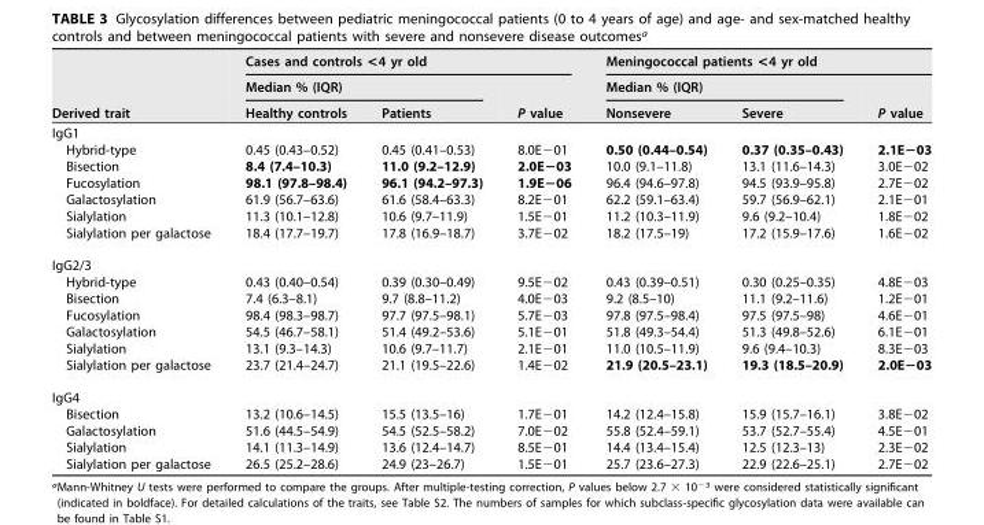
<table><thead><tr><td rowspan="3">Derived trait</td><td colspan="3">Cases and controls &lt;4 yr old</td><td colspan="3">Meningococcal patients &lt;4 yr old</td></tr><tr><td colspan="2">Median % (IQR)</td><td rowspan="2">P value</td><td colspan="2">Median % (IQR)</td><td rowspan="2">P value</td></tr><tr><td>Healthy controls</td><td>Patients</td><td>Nonsevere</td><td>Severe</td></tr></thead><tbody><tr><td colspan="7">IgG1</td></tr><tr><td>Hybrid-type</td><td>0.45 (0.43–0.52)</td><td>0.45 (0.41–0.53)</td><td>8.0E−01</td><td>0.50 (0.44–0.54)</td><td>0.37 (0.35–0.43)</td><td>2.1E−03</td></tr><tr><td>Bisection</td><td>8.4 (7.4–10.3)</td><td>11.0 (9.2–12.9)</td><td>2.0E−03</td><td>10.0 (9.1–11.8)</td><td>13.1 (11.6–14.3)</td><td>3.0E−02</td></tr><tr><td>Fucosylation</td><td>98.1 (97.8–98.4)</td><td>96.1 (94.2–97.3)</td><td>1.9E−06</td><td>96.4 (94.6–97.8)</td><td>94.5 (93.9–95.8)</td><td>2.7E−02</td></tr><tr><td>Galactosylation</td><td>61.9 (56.7–63.6)</td><td>61.6 (58.4–63.3)</td><td>8.2E−01</td><td>62.2 (59.1–63.4)</td><td>59.7 (56.9–62.1)</td><td>2.1E−01</td></tr><tr><td>Sialylation</td><td>11.3 (10.1–12.8)</td><td>10.6 (9.7–11.9)</td><td>1.5E−01</td><td>11.2 (10.3–11.9)</td><td>9.6 (9.2–10.4)</td><td>1.8E−02</td></tr><tr><td>Sialylation per galactose</td><td>18.4 (17.7–19.7)</td><td>17.8 (16.9–18.7)</td><td>3.7E−02</td><td>18.2 (17.5–19)</td><td>17.2 (15.9–17.6)</td><td>1.6E−02</td></tr><tr><td colspan="7">IgG2/3</td></tr><tr><td>Hybrid-type</td><td>0.43 (0.40–0.54)</td><td>0.39 (0.30–0.49)</td><td>9.5E−02</td><td>0.43 (0.39–0.51)</td><td>0.30 (0.25–0.35)</td><td>4.8E−03</td></tr><tr><td>Bisection</td><td>7.4 (6.3–8.1)</td><td>9.7 (8.8–11.2)</td><td>4.0E−03</td><td>9.2 (8.5–10)</td><td>11.1 (9.2–11.6)</td><td>1.2E−01</td></tr><tr><td>Fucosylation</td><td>98.4 (98.3–98.7)</td><td>97.7 (97.5–98.1)</td><td>5.7E−03</td><td>97.8 (97.5–98.4)</td><td>97.5 (97.5–98)</td><td>4.6E−01</td></tr><tr><td>Galactosylation</td><td>54.5 (46.7–58.1)</td><td>51.4 (49.2–53.6)</td><td>5.1E−01</td><td>51.8 (49.3–54.4)</td><td>51.3 (49.8–52.6)</td><td>6.1E−01</td></tr><tr><td>Sialylation</td><td>13.1 (9.3–14.3)</td><td>10.6 (9.7–11.7)</td><td>2.1E−01</td><td>11.0 (10.5–11.9)</td><td>9.6 (9.4–10.3)</td><td>8.3E−03</td></tr><tr><td>Sialylation per galactose</td><td>23.7 (21.4–24.7)</td><td>21.1 (19.5–22.6)</td><td>1.4E−02</td><td>21.9 (20.5–23.1)</td><td>19.3 (18.5–20.9)</td><td>2.0E−03</td></tr><tr><td colspan="7">IgG4</td></tr><tr><td>Bisection</td><td>13.2 (10.6–14.5)</td><td>15.5 (13.5–16)</td><td>1.7E−01</td><td>14.2 (12.4–15.8)</td><td>15.9 (15.7–16.1)</td><td>3.8E−02</td></tr><tr><td>Galactosylation</td><td>51.6 (44.5–54.9)</td><td>54.5 (52.5–58.2)</td><td>7.0E−02</td><td>55.8 (52.4–59.1)</td><td>53.7 (52.7–55.4)</td><td>4.5E−01</td></tr><tr><td>Sialylation</td><td>14.1 (11.3–14.9)</td><td>13.6 (12.4–14.7)</td><td>8.5E−01</td><td>14.4 (13.4–15.4)</td><td>12.5 (12.3–13)</td><td>2.3E−02</td></tr><tr><td>Sialylation per galactose</td><td>26.5 (25.2–28.6)</td><td>24.9 (23–26.7)</td><td>1.5E−01</td><td>25.7 (23.6–27.3)</td><td>22.9 (22.6–25.1)</td><td>2.7E−02</td></tr></tbody></table>